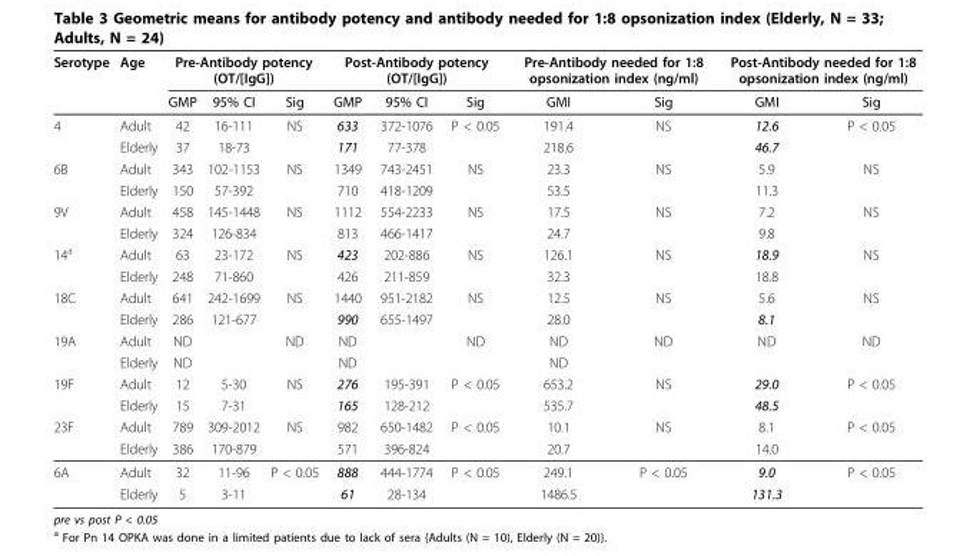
<table><thead><tr><td rowspan="2">Serotype</td><td rowspan="2">Age</td><td colspan="3">Pre-Antibody potency (OT/[IgG])</td><td colspan="3">Post-Antibody potency (OT/[IgG])</td><td colspan="2">Pre-Antibody needed for 1:8 opsonization index (ng/ml)</td><td colspan="2">Post-Antibody needed for 1:8 opsonization index (ng/ml)</td></tr><tr><td>GMP</td><td>95% CI</td><td>Sig</td><td>GMP</td><td>95% CI</td><td>Sig</td><td>GMI</td><td>Sig</td><td>GMI</td><td>Sig</td></tr></thead><tbody><tr><td rowspan="2">4</td><td>Adult</td><td>42</td><td>16-111</td><td>NS</td><td>633</td><td>372-1076</td><td>P &lt; 0.05</td><td>191.4</td><td>NS</td><td>12.6</td><td>P &lt; 0.05</td></tr><tr><td>Elderly</td><td>37</td><td>18-73</td><td></td><td>171</td><td>77-378</td><td></td><td>218.6</td><td></td><td>46.7</td><td></td></tr><tr><td rowspan="2">6B</td><td>Adult</td><td>343</td><td>102-1153</td><td>NS</td><td>1349</td><td>743-2451</td><td>NS</td><td>23.3</td><td>NS</td><td>5.9</td><td>NS</td></tr><tr><td>Elderly</td><td>150</td><td>57-392</td><td></td><td>710</td><td>418-1209</td><td></td><td>53.5</td><td></td><td>11.3</td><td></td></tr><tr><td rowspan="2">9V</td><td>Adult</td><td>458</td><td>145-1448</td><td>NS</td><td>1112</td><td>554-2233</td><td>NS</td><td>17.5</td><td>NS</td><td>7.2</td><td>NS</td></tr><tr><td>Elderly</td><td>324</td><td>126-834</td><td></td><td>813</td><td>466-1417</td><td></td><td>24.7</td><td></td><td>9.8</td><td></td></tr><tr><td rowspan="2">14<sup>a</sup></td><td>Adult</td><td>63</td><td>23-172</td><td>NS</td><td>423</td><td>202-886</td><td>NS</td><td>126.1</td><td>NS</td><td>18.9</td><td>NS</td></tr><tr><td>Elderly</td><td>248</td><td>71-860</td><td></td><td>426</td><td>211-859</td><td></td><td>32.3</td><td></td><td>18.8</td><td></td></tr><tr><td rowspan="2">18C</td><td>Adult</td><td>641</td><td>242-1699</td><td>NS</td><td>1440</td><td>951-2182</td><td>NS</td><td>12.5</td><td>NS</td><td>5.6</td><td>NS</td></tr><tr><td>Elderly</td><td>286</td><td>121-677</td><td></td><td>990</td><td>655-1497</td><td></td><td>28.0</td><td></td><td>8.1</td><td></td></tr><tr><td rowspan="2">19A</td><td>Adult</td><td>ND</td><td></td><td>ND</td><td>ND</td><td></td><td>ND</td><td>ND</td><td>ND</td><td>ND</td><td>ND</td></tr><tr><td>Elderly</td><td>ND</td><td></td><td></td><td>ND</td><td></td><td></td><td>ND</td><td></td><td></td><td></td></tr><tr><td rowspan="2">19F</td><td>Adult</td><td>12</td><td>5-30</td><td>NS</td><td>276</td><td>195-391</td><td>P &lt; 0.05</td><td>653.2</td><td>NS</td><td>29.0</td><td>P &lt; 0.05</td></tr><tr><td>Elderly</td><td>15</td><td>7-31</td><td></td><td>165</td><td>128-212</td><td></td><td>535.7</td><td></td><td>48.5</td><td></td></tr><tr><td rowspan="2">23F</td><td>Adult</td><td>789</td><td>309-2012</td><td>NS</td><td>982</td><td>650-1482</td><td>P &lt; 0.05</td><td>10.1</td><td>NS</td><td>8.1</td><td>P &lt; 0.05</td></tr><tr><td>Elderly</td><td>386</td><td>170-879</td><td></td><td>571</td><td>396-824</td><td></td><td>20.7</td><td></td><td>14.0</td><td></td></tr><tr><td rowspan="2">6A</td><td>Adult</td><td>32</td><td>11-96</td><td>P &lt; 0.05</td><td>888</td><td>444-1774</td><td>P &lt; 0.05</td><td>249.1</td><td>P &lt; 0.05</td><td>9.0</td><td>P &lt; 0.05</td></tr><tr><td>Elderly</td><td>5</td><td>3-11</td><td></td><td>61</td><td>28-134</td><td></td><td>1486.5</td><td></td><td>131.3</td><td></td></tr></tbody></table>